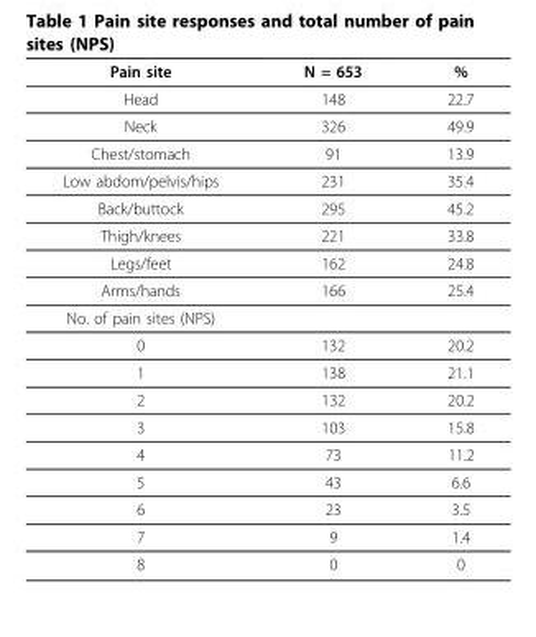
<table><thead><tr><td>Pain site</td><td>N = 653</td><td>%</td></tr></thead><tbody><tr><td>Head</td><td>148</td><td>22.7</td></tr><tr><td>Neck</td><td>326</td><td>49.9</td></tr><tr><td>Chest/stomach</td><td>91</td><td>13.9</td></tr><tr><td>Low abdom/pelvis/hips</td><td>231</td><td>35.4</td></tr><tr><td>Back/buttock</td><td>295</td><td>45.2</td></tr><tr><td>Thigh/knees</td><td>221</td><td>33.8</td></tr><tr><td>Legs/feet</td><td>162</td><td>24.8</td></tr><tr><td>Arms/hands</td><td>166</td><td>25.4</td></tr><tr><td colspan="3">No. of pain sites (NPS)</td></tr><tr><td>0</td><td>132</td><td>20.2</td></tr><tr><td>1</td><td>138</td><td>21.1</td></tr><tr><td>2</td><td>132</td><td>20.2</td></tr><tr><td>3</td><td>103</td><td>15.8</td></tr><tr><td>4</td><td>73</td><td>11.2</td></tr><tr><td>5</td><td>43</td><td>6.6</td></tr><tr><td>6</td><td>23</td><td>3.5</td></tr><tr><td>7</td><td>9</td><td>1.4</td></tr><tr><td>8</td><td>0</td><td>0</td></tr></tbody></table>